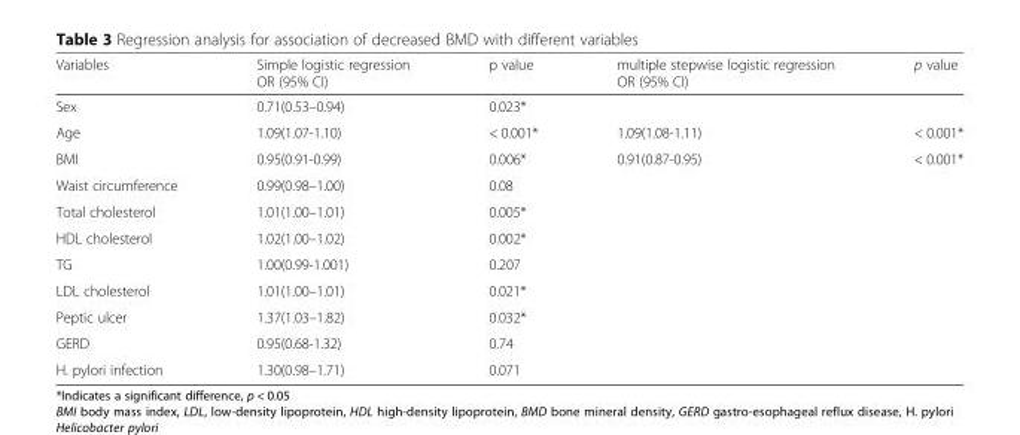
<table><thead><tr><td>Variables</td><td>Simple logistic regression OR (95% CI)</td><td>p value</td><td>multiple stepwise logistic regression OR (95% CI)</td><td>p value</td></tr></thead><tbody><tr><td>Sex</td><td>0.71(0.53–0.94)</td><td>0.023*</td><td></td><td></td></tr><tr><td>Age</td><td>1.09(1.07-1.10)</td><td>&lt; 0.001*</td><td>1.09(1.08-1.11)</td><td>&lt; 0.001*</td></tr><tr><td>BMI</td><td>0.95(0.91-0.99)</td><td>0.006*</td><td>0.91(0.87-0.95)</td><td>&lt; 0.001*</td></tr><tr><td>Waist circumference</td><td>0.99(0.98–1.00)</td><td>0.08</td><td></td><td></td></tr><tr><td>Total cholesterol</td><td>1.01(1.00–1.01)</td><td>0.005*</td><td></td><td></td></tr><tr><td>HDL cholesterol</td><td>1.02(1.00–1.02)</td><td>0.002*</td><td></td><td></td></tr><tr><td>TG</td><td>1.00(0.99-1.001)</td><td>0.207</td><td></td><td></td></tr><tr><td>LDL cholesterol</td><td>1.01(1.00–1.01)</td><td>0.021*</td><td></td><td></td></tr><tr><td>Peptic ulcer</td><td>1.37(1.03–1.82)</td><td>0.032*</td><td></td><td></td></tr><tr><td>GERD</td><td>0.95(0.68-1.32)</td><td>0.74</td><td></td><td></td></tr><tr><td>H. pylori infection</td><td>1.30(0.98–1.71)</td><td>0.071</td><td></td><td></td></tr></tbody></table>